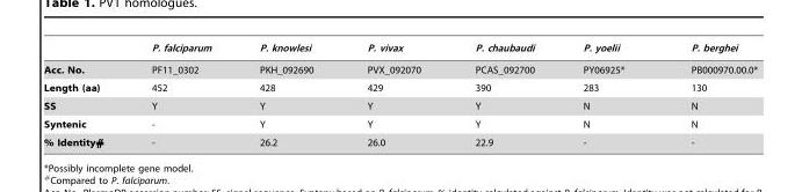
<table><thead><tr><td></td><td>P. falciparum</td><td>P. knowlesi</td><td>P. vivax</td><td>P. chaubaudi</td><td>P. yoelii</td><td>P. berghei</td></tr></thead><tbody><tr><td>Acc. No.</td><td>PF11_0302</td><td>PKH_092690</td><td>PVX_092070</td><td>PCAS_092700</td><td>PY06925*</td><td>PB000970.00.0*</td></tr><tr><td>Length (aa)</td><td>452</td><td>428</td><td>429</td><td>390</td><td>283</td><td>130</td></tr><tr><td>SS</td><td>Y</td><td>Y</td><td>Y</td><td>Y</td><td>N</td><td>N</td></tr><tr><td>Syntenic</td><td>-</td><td>Y</td><td>Y</td><td>Y</td><td>N</td><td>N</td></tr><tr><td>% Identity#</td><td>-</td><td>26.2</td><td>26.0</td><td>22.9</td><td>-</td><td>-</td></tr></tbody></table>